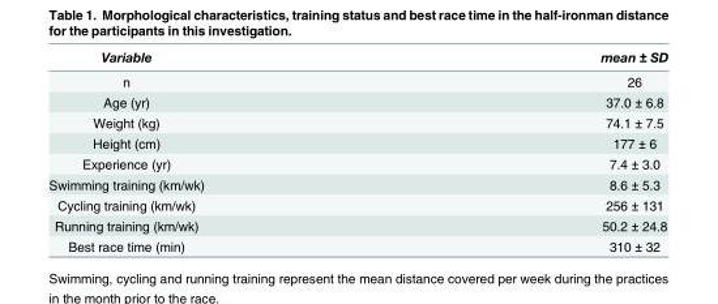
<table><thead><tr><td>Variable</td><td>mean ± SD</td></tr></thead><tbody><tr><td>n</td><td>26</td></tr><tr><td>Age (yr)</td><td>37.0 ± 6.8</td></tr><tr><td>Weight (kg)</td><td>74.1 ± 7.5</td></tr><tr><td>Height (cm)</td><td>177 ± 6</td></tr><tr><td>Experience (yr)</td><td>7.4 ± 3.0</td></tr><tr><td>Swimming training (km/wk)</td><td>8.6 ± 5.3</td></tr><tr><td>Cycling training (km/wk)</td><td>256 ± 131</td></tr><tr><td>Running training (km/wk)</td><td>50.2 ± 24.8</td></tr><tr><td>Best race time (min)</td><td>310 ± 32</td></tr></tbody></table>